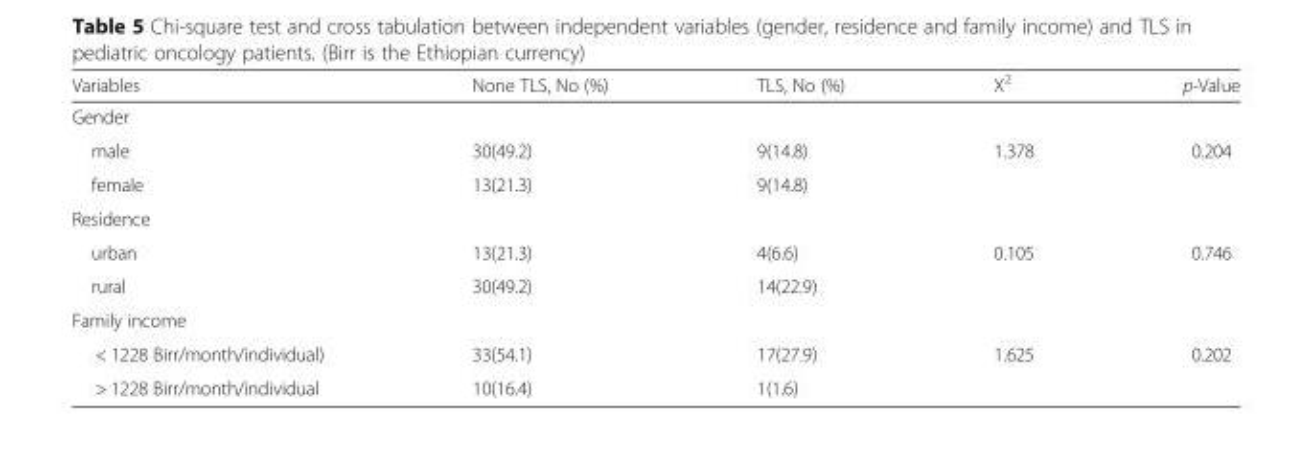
<table><thead><tr><td>Variables</td><td>None TLS, No (%)</td><td>TLS, No (%)</td><td>X<sup>2</sup></td><td>p-Value</td></tr></thead><tbody><tr><td colspan="5">Gender</td></tr><tr><td>male</td><td>30(49.2)</td><td>9(14.8)</td><td rowspan="2">1.378</td><td rowspan="2">0.204</td></tr><tr><td>female</td><td>13(21.3)</td><td>9(14.8)</td></tr><tr><td colspan="5">Residence</td></tr><tr><td>urban</td><td>13(21.3)</td><td>4(6.6)</td><td rowspan="2">0.105</td><td rowspan="2">0.746</td></tr><tr><td>rural</td><td>30(49.2)</td><td>14(22.9)</td></tr><tr><td colspan="5">Family income</td></tr><tr><td>&lt; 1228 Birr/month/individual)</td><td>33(54.1)</td><td>17(27.9)</td><td rowspan="2">1.625</td><td rowspan="2">0.202</td></tr><tr><td>&gt; 1228 Birr/month/individual</td><td>10(16.4)</td><td>1(1.6)</td></tr></tbody></table>